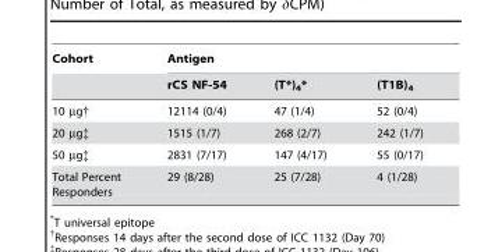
<table><thead><tr><td rowspan="2">Cohort</td><td colspan="3">Antigen</td></tr><tr><td>rCS NF-54</td><td>(T*)<sub>4</sub>*</td><td>(T1B)<sub>4</sub></td></tr></thead><tbody><tr><td>10 µg†</td><td>12114 (0/4)</td><td>47 (1/4)</td><td>52 (0/4)</td></tr><tr><td>20 µg‡</td><td>1515 (1/7)</td><td>268 (2/7)</td><td>242 (1/7)</td></tr><tr><td>50 µg‡</td><td>2831 (7/17)</td><td>147 (4/17)</td><td>55 (0/17)</td></tr><tr><td>Total Percent Responders</td><td>29 (8/28)</td><td>25 (7/28)</td><td>4 (1/28)</td></tr></tbody></table>